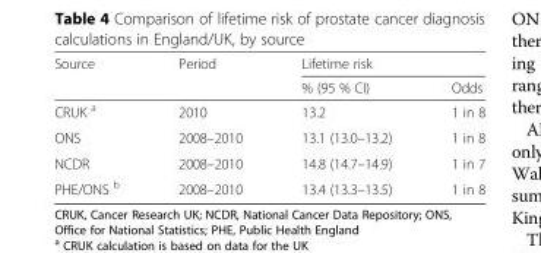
<table><thead><tr><td rowspan="2">Source</td><td rowspan="2">Period</td><td colspan="2">Lifetime risk</td></tr><tr><td>% (95 % CI)</td><td>Odds</td></tr></thead><tbody><tr><td>CRUK <sup>a</sup></td><td>2010</td><td>13.2</td><td>1 in 8</td></tr><tr><td>ONS</td><td>2008–2010</td><td>13.1 (13.0–13.2)</td><td>1 in 8</td></tr><tr><td>NCDR</td><td>2008–2010</td><td>14.8 (14.7–14.9)</td><td>1 in 7</td></tr><tr><td>PHE/ONS <sup>b</sup></td><td>2008–2010</td><td>13.4 (13.3–13.5)</td><td>1 in 8</td></tr></tbody></table>